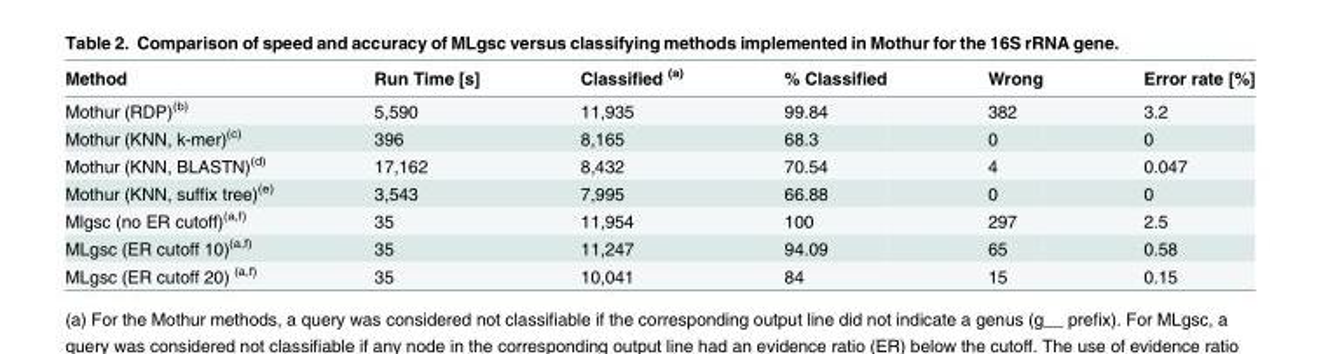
<table><thead><tr><td>Method</td><td>Run Time [s]</td><td>Classified <sup>(a)</sup></td><td>% Classified</td><td>Wrong</td><td>Error rate [%]</td></tr></thead><tbody><tr><td>Mothur (RDP)<sup>(b)</sup></td><td>5,590</td><td>11,935</td><td>99.84</td><td>382</td><td>3.2</td></tr><tr><td>Mothur (KNN, k-mer)<sup>(c)</sup></td><td>396</td><td>8,165</td><td>68.3</td><td>0</td><td>0</td></tr><tr><td>Mothur (KNN, BLASTN)<sup>(d)</sup></td><td>17,162</td><td>8,432</td><td>70.54</td><td>4</td><td>0.047</td></tr><tr><td>Mothur (KNN, suffix tree)<sup>(e)</sup></td><td>3,543</td><td>7,995</td><td>66.88</td><td>0</td><td>0</td></tr><tr><td>Mlgsc (no ER cutoff)<sup>(a,f)</sup></td><td>35</td><td>11,954</td><td>100</td><td>297</td><td>2.5</td></tr><tr><td>MLgsc (ER cutoff 10)<sup>(a,f)</sup></td><td>35</td><td>11,247</td><td>94.09</td><td>65</td><td>0.58</td></tr><tr><td>MLgsc (ER cutoff 20) <sup>(a,f)</sup></td><td>35</td><td>10,041</td><td>84</td><td>15</td><td>0.15</td></tr></tbody></table>